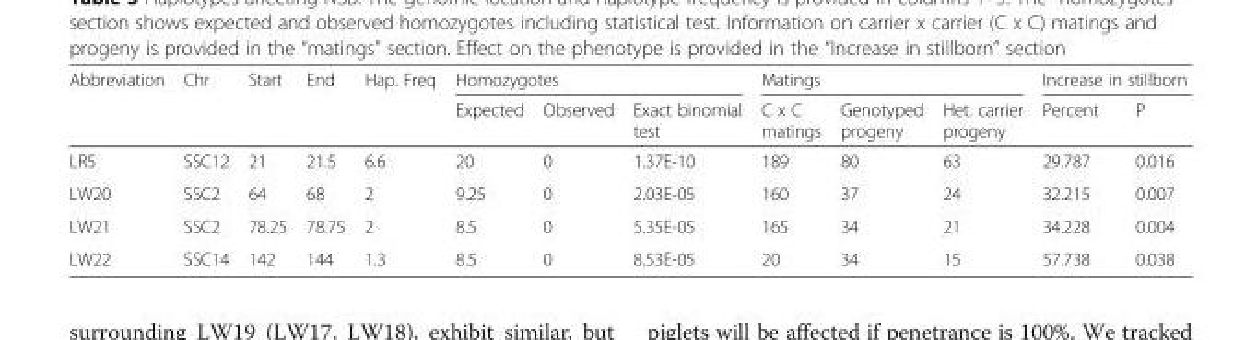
<table><thead><tr><td rowspan="2">Abbreviation</td><td rowspan="2">Chr</td><td rowspan="2">Start</td><td rowspan="2">End</td><td rowspan="2">Hap. Freq</td><td colspan="3">Homozygotes</td><td colspan="3">Matings</td><td colspan="2">Increase in stillborn</td></tr><tr><td>Expected</td><td>Observed</td><td>Exact binomial test</td><td>C x C matings</td><td>Genotyped progeny</td><td>Het. carrier progeny</td><td>Percent</td><td>P</td></tr></thead><tbody><tr><td>LR5</td><td>SSC12</td><td>21</td><td>21.5</td><td>6.6</td><td>20</td><td>0</td><td>1.37E-10</td><td>189</td><td>80</td><td>63</td><td>29.787</td><td>0.016</td></tr><tr><td>LW20</td><td>SSC2</td><td>64</td><td>68</td><td>2</td><td>9.25</td><td>0</td><td>2.03E-05</td><td>160</td><td>37</td><td>24</td><td>32.215</td><td>0.007</td></tr><tr><td>LW21</td><td>SSC2</td><td>78.25</td><td>78.75</td><td>2</td><td>8.5</td><td>0</td><td>5.35E-05</td><td>165</td><td>34</td><td>21</td><td>34.228</td><td>0.004</td></tr><tr><td>LW22</td><td>SSC14</td><td>142</td><td>144</td><td>1.3</td><td>8.5</td><td>0</td><td>8.53E-05</td><td>20</td><td>34</td><td>15</td><td>57.738</td><td>0.038</td></tr></tbody></table>